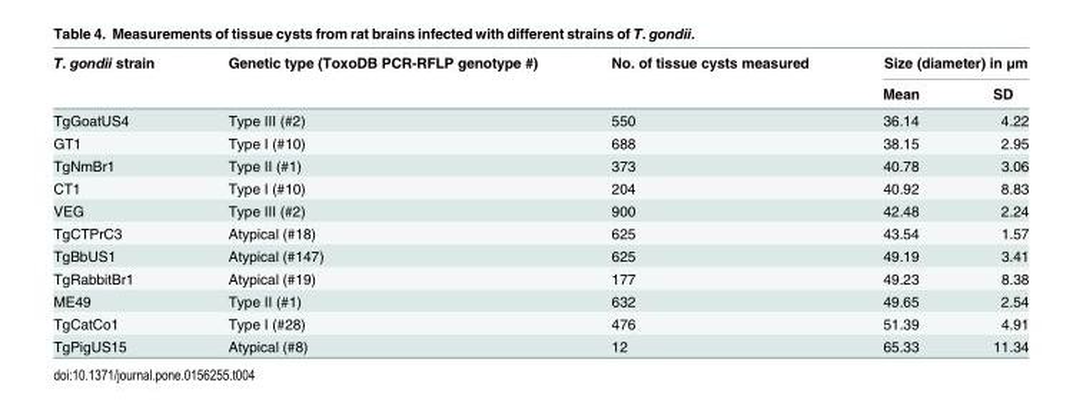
<table><thead><tr><td rowspan="2">T. gondii strain</td><td rowspan="2">Genetic type (ToxoDB PCR-RFLP genotype #)</td><td rowspan="2">No. of tissue cysts measured</td><td colspan="2">Size (diameter) in μm</td></tr><tr><td>Mean</td><td>SD</td></tr></thead><tbody><tr><td>TgGoatUS4</td><td>Type III (#2)</td><td>550</td><td>36.14</td><td>4.22</td></tr><tr><td>GT1</td><td>Type I (#10)</td><td>688</td><td>38.15</td><td>2.95</td></tr><tr><td>TgNmBr1</td><td>Type II (#1)</td><td>373</td><td>40.78</td><td>3.06</td></tr><tr><td>CT1</td><td>Type I (#10)</td><td>204</td><td>40.92</td><td>8.83</td></tr><tr><td>VEG</td><td>Type III (#2)</td><td>900</td><td>42.48</td><td>2.24</td></tr><tr><td>TgCTPrC3</td><td>Atypical (#18)</td><td>625</td><td>43.54</td><td>1.57</td></tr><tr><td>TgBbUS1</td><td>Atypical (#147)</td><td>625</td><td>49.19</td><td>3.41</td></tr><tr><td>TgRabbitBr1</td><td>Atypical (#19)</td><td>177</td><td>49.23</td><td>8.38</td></tr><tr><td>ME49</td><td>Type II (#1)</td><td>632</td><td>49.65</td><td>2.54</td></tr><tr><td>TgCatCo1</td><td>Type I (#28)</td><td>476</td><td>51.39</td><td>4.91</td></tr><tr><td>TgPigUS15</td><td>Atypical (#8)</td><td>12</td><td>65.33</td><td>11.34</td></tr></tbody></table>